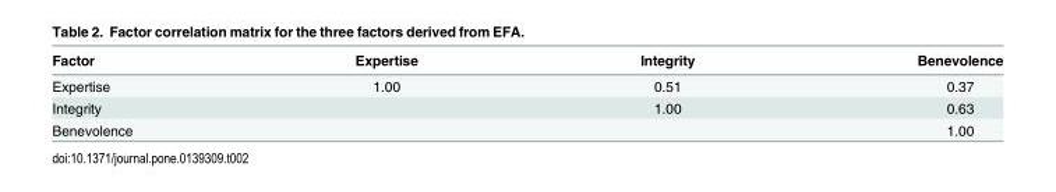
<table><thead><tr><td>Factor</td><td>Expertise</td><td>Integrity</td><td>Benevolence</td></tr></thead><tbody><tr><td>Expertise</td><td>1.00</td><td>0.51</td><td>0.37</td></tr><tr><td>Integrity</td><td></td><td>1.00</td><td>0.63</td></tr><tr><td>Benevolence</td><td></td><td></td><td>1.00</td></tr></tbody></table>